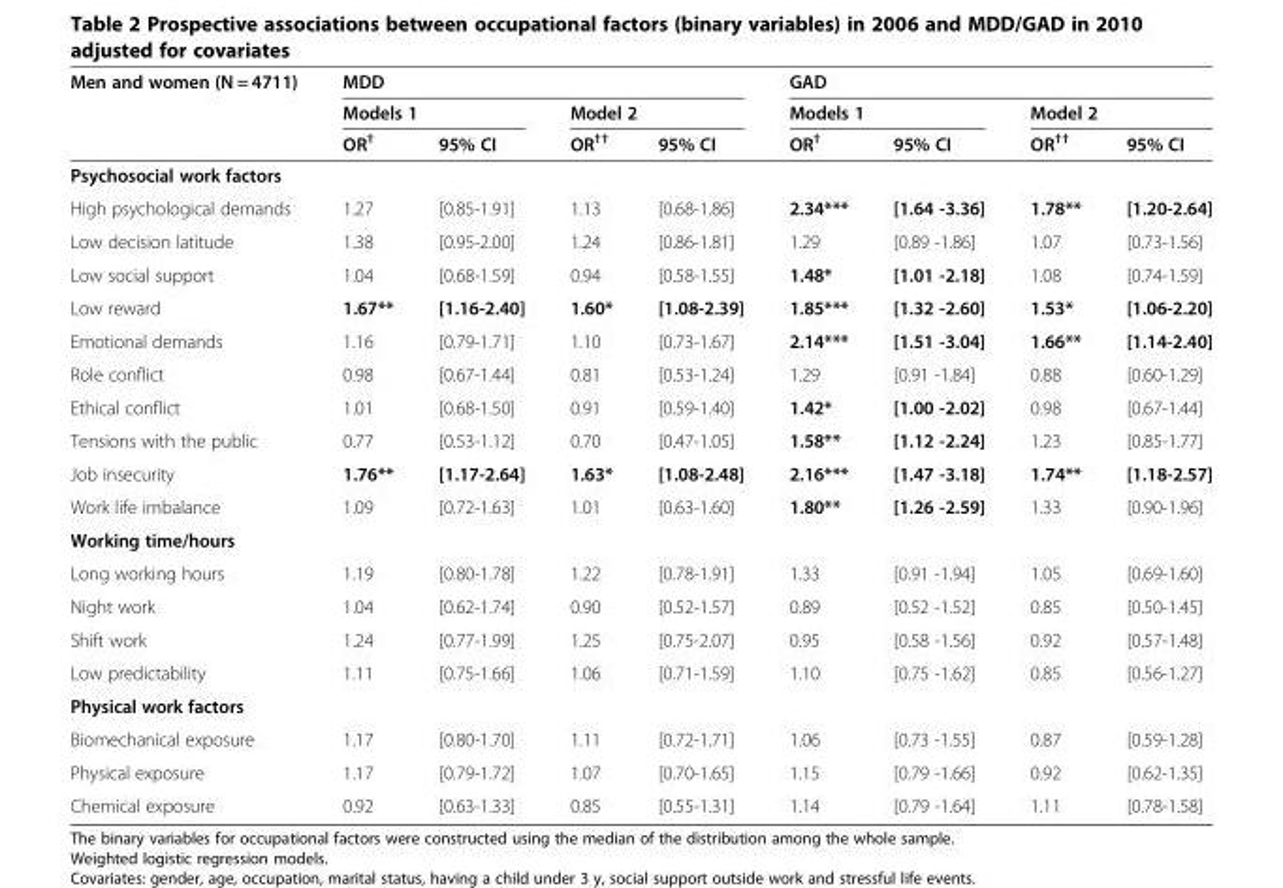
<table><thead><tr><td rowspan="3">Men and women (N = 4711)</td><td colspan="4">MDD</td><td colspan="4">GAD</td></tr><tr><td colspan="2">Models 1</td><td colspan="2">Model 2</td><td colspan="2">Models 1</td><td colspan="2">Model 2</td></tr><tr><td>OR<sup>†</sup></td><td>95% CI</td><td>OR<sup>††</sup></td><td>95% CI</td><td>OR<sup>†</sup></td><td>95% CI</td><td>OR<sup>††</sup></td><td>95% CI</td></tr></thead><tbody><tr><td colspan="9">Psychosocial work factors</td></tr><tr><td>High psychological demands</td><td>1.27</td><td>[0.85-1.91]</td><td>1.13</td><td>[0.68-1.86]</td><td>2.34***</td><td>[1.64 -3.36]</td><td>1.78**</td><td>[1.20-2.64]</td></tr><tr><td>Low decision latitude</td><td>1.38</td><td>[0.95-2.00]</td><td>1.24</td><td>[0.86-1.81]</td><td>1.29</td><td>[0.89 -1.86]</td><td>1.07</td><td>[0.73-1.56]</td></tr><tr><td>Low social support</td><td>1.04</td><td>[0.68-1.59]</td><td>0.94</td><td>[0.58-1.55]</td><td>1.48*</td><td>[1.01 -2.18]</td><td>1.08</td><td>[0.74-1.59]</td></tr><tr><td>Low reward</td><td>1.67**</td><td>[1.16-2.40]</td><td>1.60*</td><td>[1.08-2.39]</td><td>1.85***</td><td>[1.32 -2.60]</td><td>1.53*</td><td>[1.06-2.20]</td></tr><tr><td>Emotional demands</td><td>1.16</td><td>[0.79-1.71]</td><td>1.10</td><td>[0.73-1.67]</td><td>2.14***</td><td>[1.51 -3.04]</td><td>1.66**</td><td>[1.14-2.40]</td></tr><tr><td>Role conflict</td><td>0.98</td><td>[0.67-1.44]</td><td>0.81</td><td>[0.53-1.24]</td><td>1.29</td><td>[0.91 -1.84]</td><td>0.88</td><td>[0.60-1.29]</td></tr><tr><td>Ethical conflict</td><td>1.01</td><td>[0.68-1.50]</td><td>0.91</td><td>[0.59-1.40]</td><td>1.42*</td><td>[1.00 -2.02]</td><td>0.98</td><td>[0.67-1.44]</td></tr><tr><td>Tensions with the public</td><td>0.77</td><td>[0.53-1.12]</td><td>0.70</td><td>[0.47-1.05]</td><td>1.58**</td><td>[1.12 -2.24]</td><td>1.23</td><td>[0.85-1.77]</td></tr><tr><td>Job insecurity</td><td>1.76**</td><td>[1.17-2.64]</td><td>1.63*</td><td>[1.08-2.48]</td><td>2.16***</td><td>[1.47 -3.18]</td><td>1.74**</td><td>[1.18-2.57]</td></tr><tr><td>Work life imbalance</td><td>1.09</td><td>[0.72-1.63]</td><td>1.01</td><td>[0.63-1.60]</td><td>1.80**</td><td>[1.26 -2.59]</td><td>1.33</td><td>[0.90-1.96]</td></tr><tr><td colspan="9">Working time/hours</td></tr><tr><td>Long working hours</td><td>1.19</td><td>[0.80-1.78]</td><td>1.22</td><td>[0.78-1.91]</td><td>1.33</td><td>[0.91 -1.94]</td><td>1.05</td><td>[0.69-1.60]</td></tr><tr><td>Night work</td><td>1.04</td><td>[0.62-1.74]</td><td>0.90</td><td>[0.52-1.57]</td><td>0.89</td><td>[0.52 -1.52]</td><td>0.85</td><td>[0.50-1.45]</td></tr><tr><td>Shift work</td><td>1.24</td><td>[0.77-1.99]</td><td>1.25</td><td>[0.75-2.07]</td><td>0.95</td><td>[0.58 -1.56]</td><td>0.92</td><td>[0.57-1.48]</td></tr><tr><td>Low predictability</td><td>1.11</td><td>[0.75-1.66]</td><td>1.06</td><td>[0.71-1.59]</td><td>1.10</td><td>[0.75 -1.62]</td><td>0.85</td><td>[0.56-1.27]</td></tr><tr><td colspan="9">Physical work factors</td></tr><tr><td>Biomechanical exposure</td><td>1.17</td><td>[0.80-1.70]</td><td>1.11</td><td>[0.72-1.71]</td><td>1.06</td><td>[0.73 -1.55]</td><td>0.87</td><td>[0.59-1.28]</td></tr><tr><td>Physical exposure</td><td>1.17</td><td>[0.79-1.72]</td><td>1.07</td><td>[0.70-1.65]</td><td>1.15</td><td>[0.79 -1.66]</td><td>0.92</td><td>[0.62-1.35]</td></tr><tr><td>Chemical exposure</td><td>0.92</td><td>[0.63-1.33]</td><td>0.85</td><td>[0.55-1.31]</td><td>1.14</td><td>[0.79 -1.64]</td><td>1.11</td><td>[0.78-1.58]</td></tr></tbody></table>